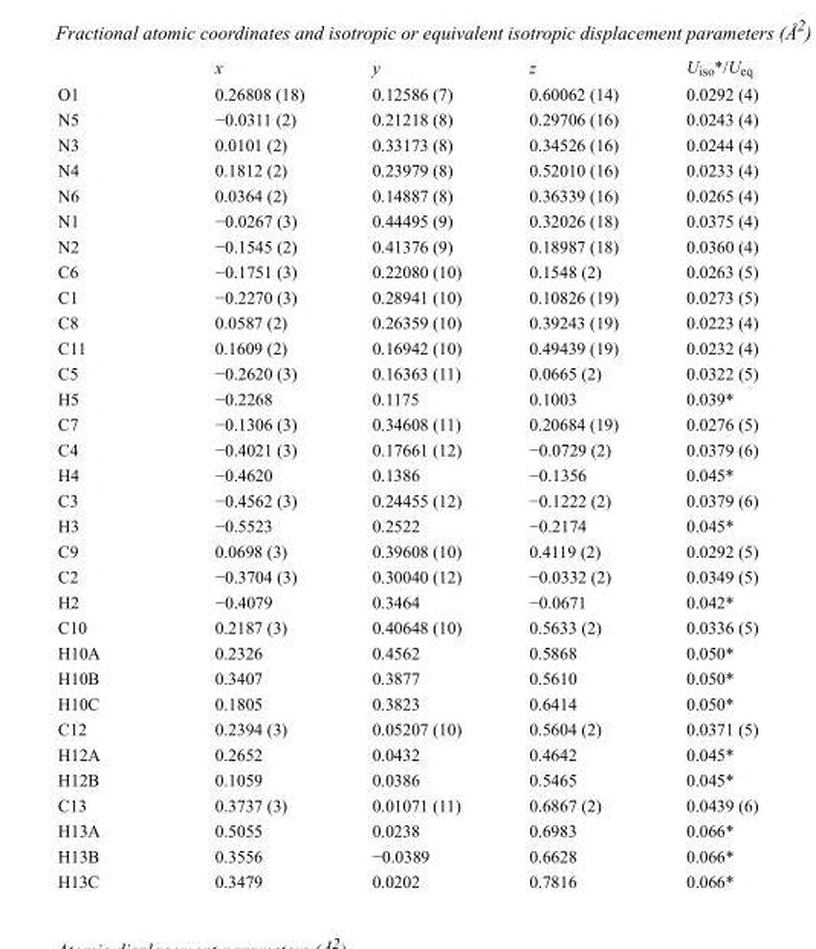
<table><thead><tr><td></td><td>x</td><td>y</td><td>z</td><td>U<sub>iso</sub>*/U<sub>eq</sub></td></tr></thead><tbody><tr><td>O1</td><td>0.26808 (18)</td><td>0.12586 (7)</td><td>0.60062 (14)</td><td>0.0292 (4)</td></tr><tr><td>N5</td><td>−0.0311 (2)</td><td>0.21218 (8)</td><td>0.29706 (16)</td><td>0.0243 (4)</td></tr><tr><td>N3</td><td>0.0101 (2)</td><td>0.33173 (8)</td><td>0.34526 (16)</td><td>0.0244 (4)</td></tr><tr><td>N4</td><td>0.1812 (2)</td><td>0.23979 (8)</td><td>0.52010 (16)</td><td>0.0233 (4)</td></tr><tr><td>N6</td><td>0.0364 (2)</td><td>0.14887 (8)</td><td>0.36339 (16)</td><td>0.0265 (4)</td></tr><tr><td>N1</td><td>−0.0267 (3)</td><td>0.44495 (9)</td><td>0.32026 (18)</td><td>0.0375 (4)</td></tr><tr><td>N2</td><td>−0.1545 (2)</td><td>0.41376 (9)</td><td>0.18987 (18)</td><td>0.0360 (4)</td></tr><tr><td>C6</td><td>−0.1751 (3)</td><td>0.22080 (10)</td><td>0.1548 (2)</td><td>0.0263 (5)</td></tr><tr><td>C1</td><td>−0.2270 (3)</td><td>0.28941 (10)</td><td>0.10826 (19)</td><td>0.0273 (5)</td></tr><tr><td>C8</td><td>0.0587 (2)</td><td>0.26359 (10)</td><td>0.39243 (19)</td><td>0.0223 (4)</td></tr><tr><td>C11</td><td>0.1609 (2)</td><td>0.16942 (10)</td><td>0.49439 (19)</td><td>0.0232 (4)</td></tr><tr><td>C5</td><td>−0.2620 (3)</td><td>0.16363 (11)</td><td>0.0665 (2)</td><td>0.0322 (5)</td></tr><tr><td>H5</td><td>−0.2268</td><td>0.1175</td><td>0.1003</td><td>0.039*</td></tr><tr><td>C7</td><td>−0.1306 (3)</td><td>0.34608 (11)</td><td>0.20684 (19)</td><td>0.0276 (5)</td></tr><tr><td>C4</td><td>−0.4021 (3)</td><td>0.17661 (12)</td><td>−0.0729 (2)</td><td>0.0379 (6)</td></tr><tr><td>H4</td><td>−0.4620</td><td>0.1386</td><td>−0.1356</td><td>0.045*</td></tr><tr><td>C3</td><td>−0.4562 (3)</td><td>0.24455 (12)</td><td>−0.1222 (2)</td><td>0.0379 (6)</td></tr><tr><td>H3</td><td>−0.5523</td><td>0.2522</td><td>−0.2174</td><td>0.045*</td></tr><tr><td>C9</td><td>0.0698 (3)</td><td>0.39608 (10)</td><td>0.4119 (2)</td><td>0.0292 (5)</td></tr><tr><td>C2</td><td>−0.3704 (3)</td><td>0.30040 (12)</td><td>−0.0332 (2)</td><td>0.0349 (5)</td></tr><tr><td>H2</td><td>−0.4079</td><td>0.3464</td><td>−0.0671</td><td>0.042*</td></tr><tr><td>C10</td><td>0.2187 (3)</td><td>0.40648 (10)</td><td>0.5633 (2)</td><td>0.0336 (5)</td></tr><tr><td>H10A</td><td>0.2326</td><td>0.4562</td><td>0.5868</td><td>0.050*</td></tr><tr><td>H10B</td><td>0.3407</td><td>0.3877</td><td>0.5610</td><td>0.050*</td></tr><tr><td>H10C</td><td>0.1805</td><td>0.3823</td><td>0.6414</td><td>0.050*</td></tr><tr><td>C12</td><td>0.2394 (3)</td><td>0.05207 (10)</td><td>0.5604 (2)</td><td>0.0371 (5)</td></tr><tr><td>H12A</td><td>0.2652</td><td>0.0432</td><td>0.4642</td><td>0.045*</td></tr><tr><td>H12B</td><td>0.1059</td><td>0.0386</td><td>0.5465</td><td>0.045*</td></tr><tr><td>C13</td><td>0.3737 (3)</td><td>0.01071 (11)</td><td>0.6867 (2)</td><td>0.0439 (6)</td></tr><tr><td>H13A</td><td>0.5055</td><td>0.0238</td><td>0.6983</td><td>0.066*</td></tr><tr><td>H13B</td><td>0.3556</td><td>−0.0389</td><td>0.6628</td><td>0.066*</td></tr><tr><td>H13C</td><td>0.3479</td><td>0.0202</td><td>0.7816</td><td>0.066*</td></tr></tbody></table>